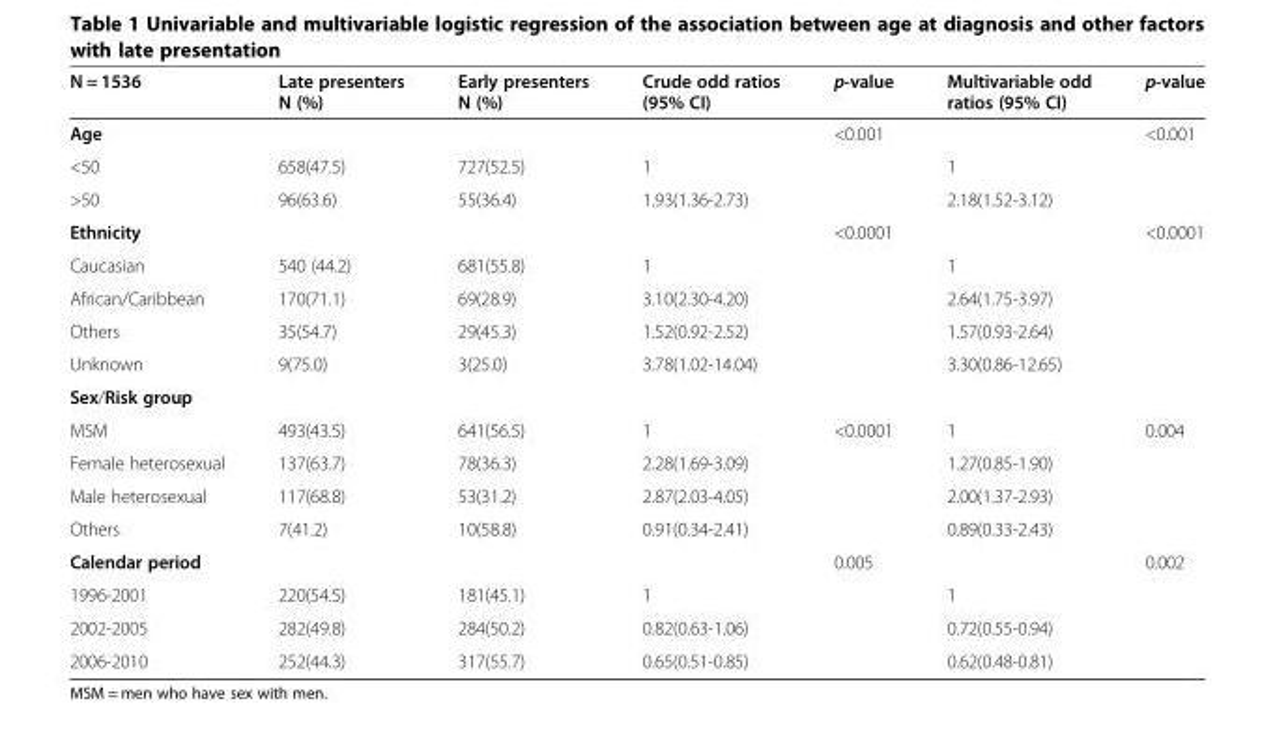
<table><thead><tr><td>N = 1536</td><td>Late presenters N (%)</td><td>Early presenters N (%)</td><td>Crude odd ratios (95% CI)</td><td>p-value</td><td>Multivariable odd ratios (95% CI)</td><td>p-value</td></tr></thead><tbody><tr><td>Age</td><td></td><td></td><td></td><td>&lt;0.001</td><td></td><td>&lt;0.001</td></tr><tr><td>&lt;50</td><td>658(47.5)</td><td>727(52.5)</td><td>1</td><td></td><td>1</td><td></td></tr><tr><td>&gt;50</td><td>96(63.6)</td><td>55(36.4)</td><td>1.93(1.36-2.73)</td><td></td><td>2.18(1.52-3.12)</td><td></td></tr><tr><td>Ethnicity</td><td></td><td></td><td></td><td>&lt;0.0001</td><td></td><td>&lt;0.0001</td></tr><tr><td>Caucasian</td><td>540 (44.2)</td><td>681(55.8)</td><td>1</td><td></td><td>1</td><td></td></tr><tr><td>African/Caribbean</td><td>170(71.1)</td><td>69(28.9)</td><td>3.10(2.30-4.20)</td><td></td><td>2.64(1.75-3.97)</td><td></td></tr><tr><td>Others</td><td>35(54.7)</td><td>29(45.3)</td><td>1.52(0.92-2.52)</td><td></td><td>1.57(0.93-2.64)</td><td></td></tr><tr><td>Unknown</td><td>9(75.0)</td><td>3(25.0)</td><td>3.78(1.02-14.04)</td><td></td><td>3.30(0.86-12.65)</td><td></td></tr><tr><td colspan="7">Sex/Risk group</td></tr><tr><td>MSM</td><td>493(43.5)</td><td>641(56.5)</td><td>1</td><td>&lt;0.0001</td><td>1</td><td>0.004</td></tr><tr><td>Female heterosexual</td><td>137(63.7)</td><td>78(36.3)</td><td>2.28(1.69-3.09)</td><td></td><td>1.27(0.85-1.90)</td><td></td></tr><tr><td>Male heterosexual</td><td>117(68.8)</td><td>53(31.2)</td><td>2.87(2.03-4.05)</td><td></td><td>2.00(1.37-2.93)</td><td></td></tr><tr><td>Others</td><td>7(41.2)</td><td>10(58.8)</td><td>0.91(0.34-2.41)</td><td></td><td>0.89(0.33-2.43)</td><td></td></tr><tr><td>Calendar period</td><td></td><td></td><td></td><td>0.005</td><td></td><td>0.002</td></tr><tr><td>1996-2001</td><td>220(54.5)</td><td>181(45.1)</td><td>1</td><td></td><td>1</td><td></td></tr><tr><td>2002-2005</td><td>282(49.8)</td><td>284(50.2)</td><td>0.82(0.63-1.06)</td><td></td><td>0.72(0.55-0.94)</td><td></td></tr><tr><td>2006-2010</td><td>252(44.3)</td><td>317(55.7)</td><td>0.65(0.51-0.85)</td><td></td><td>0.62(0.48-0.81)</td><td></td></tr></tbody></table>